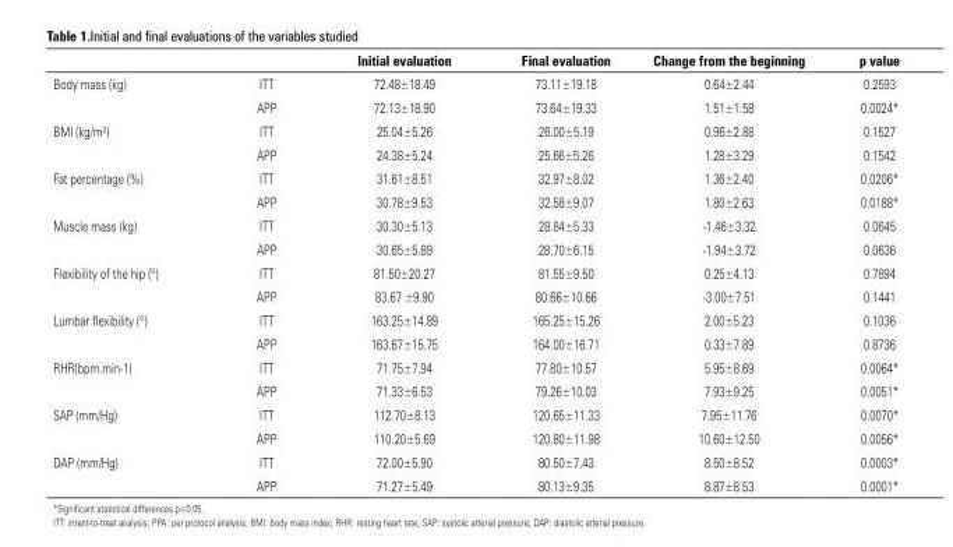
<table><thead><tr><td></td><td></td><td>Initial evaluation</td><td>Final evaluation</td><td>Change from the beginning</td><td>p value</td></tr></thead><tbody><tr><td rowspan="2">Body mass (kg)</td><td>ITT</td><td>72.48±18.49</td><td>73.11±19.18</td><td>0.64±2.44</td><td>0.2593</td></tr><tr><td>APP</td><td>72.13±18.90</td><td>73.64±19.33</td><td>1.51±1.58</td><td>0.0024*</td></tr><tr><td rowspan="2">BMI (kg/m²)</td><td>ITT</td><td>25.04±5.26</td><td>26.00±5.19</td><td>0.96±2.88</td><td>0.1527</td></tr><tr><td>APP</td><td>24.38±5.24</td><td>25.66±5.26</td><td>1.28±3.29</td><td>0.1542</td></tr><tr><td rowspan="2">Fat percentage (%)</td><td>ITT</td><td>31.61±8.51</td><td>32.97±8.02</td><td>1.36±2.40</td><td>0.0206*</td></tr><tr><td>APP</td><td>30.78±9.53</td><td>32.58±9.07</td><td>1.80±2.63</td><td>0.0188*</td></tr><tr><td rowspan="2">Muscle mass (kg)</td><td>ITT</td><td>30.30±5.13</td><td>28.84±5.33</td><td>-1.46±3.32</td><td>0.0645</td></tr><tr><td>APP</td><td>30.65±5.89</td><td>28.70±6.15</td><td>-1.94±3.72</td><td>0.0636</td></tr><tr><td rowspan="2">Flexibility of the hip (º)</td><td>ITT</td><td>81.50±20.27</td><td>81.55±9.50</td><td>0.25±4.13</td><td>0.7894</td></tr><tr><td>APP</td><td>83.67 ±9.90</td><td>80.66±10.66</td><td>-3.00±7.51</td><td>0.1441</td></tr><tr><td rowspan="2">Lumbar flexibility (º)</td><td>ITT</td><td>163.25±14.89</td><td>165.25±15.26</td><td>2.00±5.23</td><td>0.1036</td></tr><tr><td>APP</td><td>163.67±15.75</td><td>164.00±16.71</td><td>0.33±7.89</td><td>0.8736</td></tr><tr><td rowspan="2">RHR(bpm.min-1)</td><td>ITT</td><td>71.75±7.94</td><td>77.80±10.57</td><td>5.95±8.69</td><td>0.0064*</td></tr><tr><td>APP</td><td>71.33±6.53</td><td>79.26±10.03</td><td>7.93±9.25</td><td>0.0051*</td></tr><tr><td rowspan="2">SAP (mm/Hg)</td><td>ITT</td><td>112.70±8.13</td><td>120.65±11.33</td><td>7.95±11.76</td><td>0.0070*</td></tr><tr><td>APP</td><td>110.20±5.69</td><td>120.80±11.98</td><td>10.60±12.50</td><td>0.0056*</td></tr><tr><td rowspan="2">DAP (mm/Hg)</td><td>ITT</td><td>72.00±5.90</td><td>80.50±7.43</td><td>8.50±8.52</td><td>0.0003*</td></tr><tr><td>APP</td><td>71.27±5.49</td><td>80.13±9.35</td><td>8.87±8.53</td><td>0.0001*</td></tr></tbody></table>